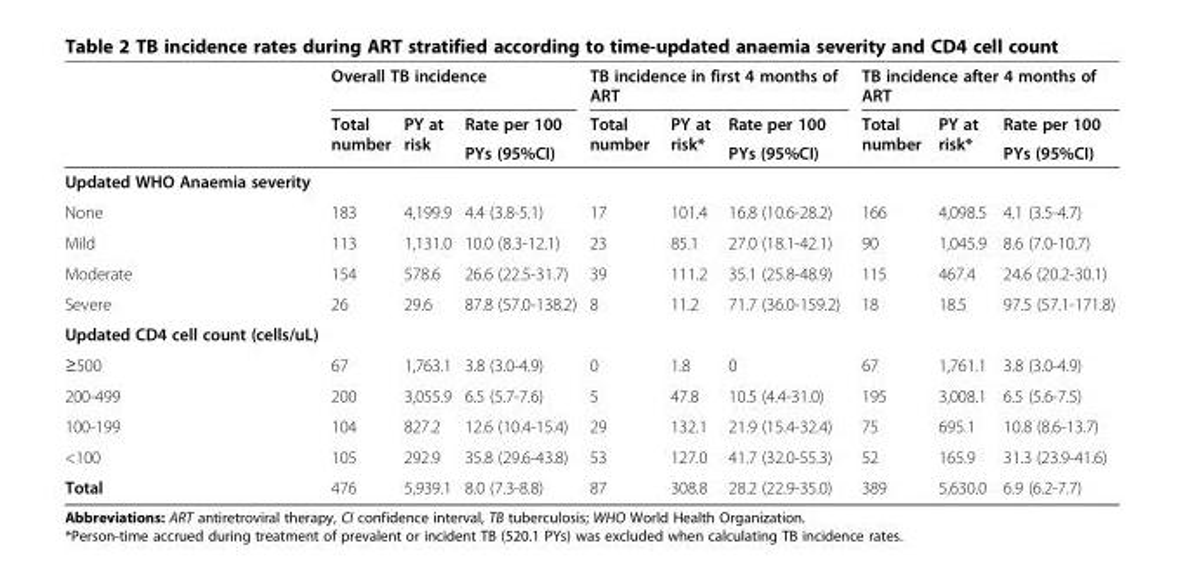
<table><thead><tr><td rowspan="3"></td><td colspan="3">Overall TB incidence</td><td colspan="3">TB incidence in first 4 months of ART</td><td colspan="3">TB incidence after 4 months of ART</td></tr><tr><td rowspan="2">Total number</td><td rowspan="2">PY at risk</td><td rowspan="2">Rate per 100 PYs (95%CI)</td><td rowspan="2">Total number</td><td rowspan="2">PY at risk*</td><td rowspan="2">Rate per 100 PYs (95%CI)</td><td rowspan="2">Total number</td><td rowspan="2">PY at risk*</td><td rowspan="2">Rate per 100 PYs (95%CI)</td></tr><tr></tr></thead><tbody><tr><td colspan="10">Updated WHO Anaemia severity</td></tr><tr><td>None</td><td>183</td><td>4,199.9</td><td>4.4 (3.8-5.1)</td><td>17</td><td>101.4</td><td>16.8 (10.6-28.2)</td><td>166</td><td>4,098.5</td><td>4.1 (3.5-4.7)</td></tr><tr><td>Mild</td><td>113</td><td>1,131.0</td><td>10.0 (8.3-12.1)</td><td>23</td><td>85.1</td><td>27.0 (18.1-42.1)</td><td>90</td><td>1,045.9</td><td>8.6 (7.0-10.7)</td></tr><tr><td>Moderate</td><td>154</td><td>578.6</td><td>26.6 (22.5-31.7)</td><td>39</td><td>111.2</td><td>35.1 (25.8-48.9)</td><td>115</td><td>467.4</td><td>24.6 (20.2-30.1)</td></tr><tr><td>Severe</td><td>26</td><td>29.6</td><td>87.8 (57.0-138.2)</td><td>8</td><td>11.2</td><td>71.7 (36.0-159.2)</td><td>18</td><td>18.5</td><td>97.5 (57.1-171.8)</td></tr><tr><td colspan="10">Updated CD4 cell count (cells/uL)</td></tr><tr><td>≥500</td><td>67</td><td>1,763.1</td><td>3.8 (3.0-4.9)</td><td>0</td><td>1.8</td><td>0</td><td>67</td><td>1,761.1</td><td>3.8 (3.0-4.9)</td></tr><tr><td>200-499</td><td>200</td><td>3,055.9</td><td>6.5 (5.7-7.6)</td><td>5</td><td>47.8</td><td>10.5 (4.4-31.0)</td><td>195</td><td>3,008.1</td><td>6.5 (5.6-7.5)</td></tr><tr><td>100-199</td><td>104</td><td>827.2</td><td>12.6 (10.4-15.4)</td><td>29</td><td>132.1</td><td>21.9 (15.4-32.4)</td><td>75</td><td>695.1</td><td>10.8 (8.6-13.7)</td></tr><tr><td>&lt;100</td><td>105</td><td>292.9</td><td>35.8 (29.6-43.8)</td><td>53</td><td>127.0</td><td>41.7 (32.0-55.3)</td><td>52</td><td>165.9</td><td>31.3 (23.9-41.6)</td></tr><tr><td>Total</td><td>476</td><td>5,939.1</td><td>8.0 (7.3-8.8)</td><td>87</td><td>308.8</td><td>28.2 (22.9-35.0)</td><td>389</td><td>5,630.0</td><td>6.9 (6.2-7.7)</td></tr></tbody></table>